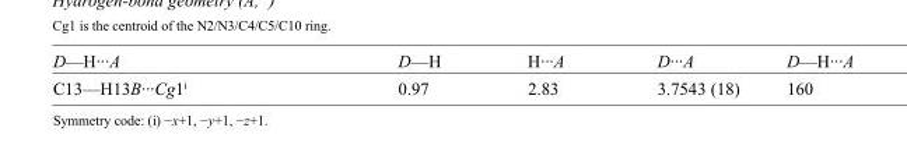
<table><tbody><tr><td>D—H···A</td><td>D—H</td><td>H···A</td><td>D···A</td><td>D—H···A</td></tr><tr><td>C13—H13B···Cg1<sup>i</sup></td><td>0.97</td><td>2.83</td><td>3.7543 (18)</td><td>160</td></tr></tbody></table>